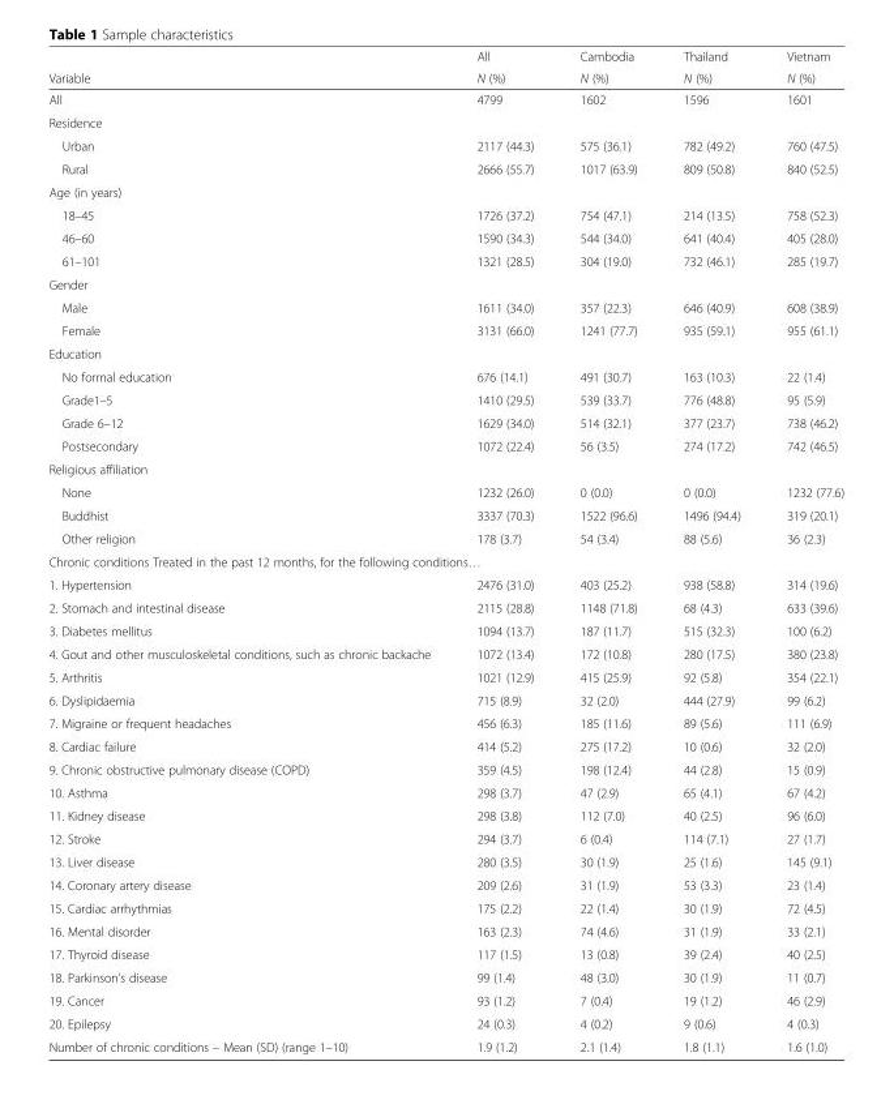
<table><thead><tr><td rowspan="2">Variable</td><td rowspan="2">All N (%)</td><td rowspan="2">Cambodia N (%)</td><td rowspan="2">Thailand N (%)</td><td rowspan="2">Vietnam N (%)</td></tr><tr></tr></thead><tbody><tr><td>All</td><td>4799</td><td>1602</td><td>1596</td><td>1601</td></tr><tr><td colspan="5">Residence</td></tr><tr><td>Urban</td><td>2117 (44.3)</td><td>575 (36.1)</td><td>782 (49.2)</td><td>760 (47.5)</td></tr><tr><td>Rural</td><td>2666 (55.7)</td><td>1017 (63.9)</td><td>809 (50.8)</td><td>840 (52.5)</td></tr><tr><td colspan="5">Age (in years)</td></tr><tr><td>18–45</td><td>1726 (37.2)</td><td>754 (47.1)</td><td>214 (13.5)</td><td>758 (52.3)</td></tr><tr><td>46–60</td><td>1590 (34.3)</td><td>544 (34.0)</td><td>641 (40.4)</td><td>405 (28.0)</td></tr><tr><td>61–101</td><td>1321 (28.5)</td><td>304 (19.0)</td><td>732 (46.1)</td><td>285 (19.7)</td></tr><tr><td colspan="5">Gender</td></tr><tr><td>Male</td><td>1611 (34.0)</td><td>357 (22.3)</td><td>646 (40.9)</td><td>608 (38.9)</td></tr><tr><td>Female</td><td>3131 (66.0)</td><td>1241 (77.7)</td><td>935 (59.1)</td><td>955 (61.1)</td></tr><tr><td colspan="5">Education</td></tr><tr><td>No formal education</td><td>676 (14.1)</td><td>491 (30.7)</td><td>163 (10.3)</td><td>22 (1.4)</td></tr><tr><td>Grade1–5</td><td>1410 (29.5)</td><td>539 (33.7)</td><td>776 (48.8)</td><td>95 (5.9)</td></tr><tr><td>Grade 6–12</td><td>1629 (34.0)</td><td>514 (32.1)</td><td>377 (23.7)</td><td>738 (46.2)</td></tr><tr><td>Postsecondary</td><td>1072 (22.4)</td><td>56 (3.5)</td><td>274 (17.2)</td><td>742 (46.5)</td></tr><tr><td colspan="5">Religious affiliation</td></tr><tr><td>None</td><td>1232 (26.0)</td><td>0 (0.0)</td><td>0 (0.0)</td><td>1232 (77.6)</td></tr><tr><td>Buddhist</td><td>3337 (70.3)</td><td>1522 (96.6)</td><td>1496 (94.4)</td><td>319 (20.1)</td></tr><tr><td>Other religion</td><td>178 (3.7)</td><td>54 (3.4)</td><td>88 (5.6)</td><td>36 (2.3)</td></tr><tr><td colspan="5">Chronic conditions Treated in the past 12 months, for the following conditions…</td></tr><tr><td>1. Hypertension</td><td>2476 (31.0)</td><td>403 (25.2)</td><td>938 (58.8)</td><td>314 (19.6)</td></tr><tr><td>2. Stomach and intestinal disease</td><td>2115 (28.8)</td><td>1148 (71.8)</td><td>68 (4.3)</td><td>633 (39.6)</td></tr><tr><td>3. Diabetes mellitus</td><td>1094 (13.7)</td><td>187 (11.7)</td><td>515 (32.3)</td><td>100 (6.2)</td></tr><tr><td>4. Gout and other musculoskeletal conditions, such as chronic backache</td><td>1072 (13.4)</td><td>172 (10.8)</td><td>280 (17.5)</td><td>380 (23.8)</td></tr><tr><td>5. Arthritis</td><td>1021 (12.9)</td><td>415 (25.9)</td><td>92 (5.8)</td><td>354 (22.1)</td></tr><tr><td>6. Dyslipidaemia</td><td>715 (8.9)</td><td>32 (2.0)</td><td>444 (27.9)</td><td>99 (6.2)</td></tr><tr><td>7. Migraine or frequent headaches</td><td>456 (6.3)</td><td>185 (11.6)</td><td>89 (5.6)</td><td>111 (6.9)</td></tr><tr><td>8. Cardiac failure</td><td>414 (5.2)</td><td>275 (17.2)</td><td>10 (0.6)</td><td>32 (2.0)</td></tr><tr><td>9. Chronic obstructive pulmonary disease (COPD)</td><td>359 (4.5)</td><td>198 (12.4)</td><td>44 (2.8)</td><td>15 (0.9)</td></tr><tr><td>10. Asthma</td><td>298 (3.7)</td><td>47 (2.9)</td><td>65 (4.1)</td><td>67 (4.2)</td></tr><tr><td>11. Kidney disease</td><td>298 (3.8)</td><td>112 (7.0)</td><td>40 (2.5)</td><td>96 (6.0)</td></tr><tr><td>12. Stroke</td><td>294 (3.7)</td><td>6 (0.4)</td><td>114 (7.1)</td><td>27 (1.7)</td></tr><tr><td>13. Liver disease</td><td>280 (3.5)</td><td>30 (1.9)</td><td>25 (1.6)</td><td>145 (9.1)</td></tr><tr><td>14. Coronary artery disease</td><td>209 (2.6)</td><td>31 (1.9)</td><td>53 (3.3)</td><td>23 (1.4)</td></tr><tr><td>15. Cardiac arrhythmias</td><td>175 (2.2)</td><td>22 (1.4)</td><td>30 (1.9)</td><td>72 (4.5)</td></tr><tr><td>16. Mental disorder</td><td>163 (2.3)</td><td>74 (4.6)</td><td>31 (1.9)</td><td>33 (2.1)</td></tr><tr><td>17. Thyroid disease</td><td>117 (1.5)</td><td>13 (0.8)</td><td>39 (2.4)</td><td>40 (2.5)</td></tr><tr><td>18. Parkinson’s disease</td><td>99 (1.4)</td><td>48 (3.0)</td><td>30 (1.9)</td><td>11 (0.7)</td></tr><tr><td>19. Cancer</td><td>93 (1.2)</td><td>7 (0.4)</td><td>19 (1.2)</td><td>46 (2.9)</td></tr><tr><td>20. Epilepsy</td><td>24 (0.3)</td><td>4 (0.2)</td><td>9 (0.6)</td><td>4 (0.3)</td></tr><tr><td>Number of chronic conditions – Mean (SD) (range 1–10)</td><td>1.9 (1.2)</td><td>2.1 (1.4)</td><td>1.8 (1.1)</td><td>1.6 (1.0)</td></tr></tbody></table>